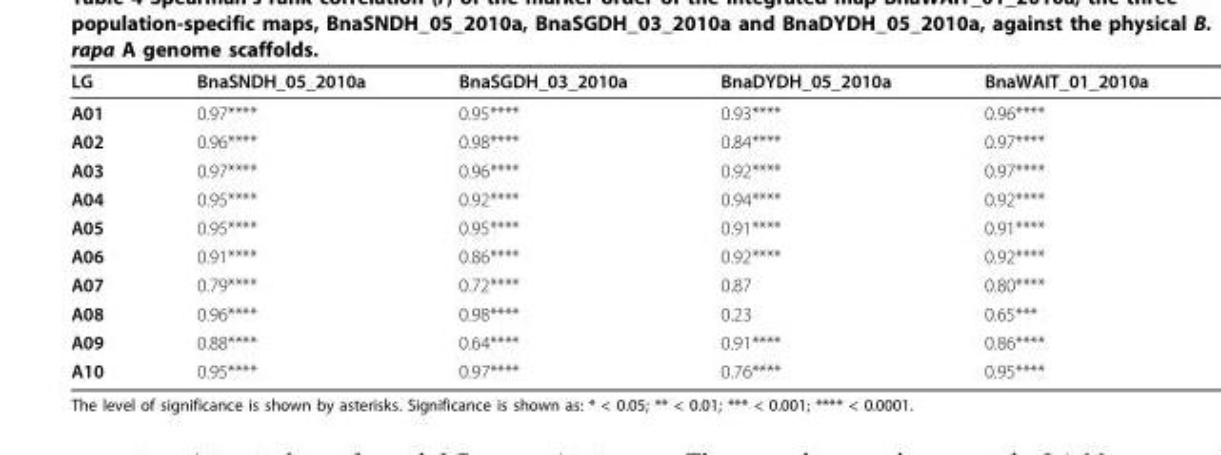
<table><thead><tr><td>LG</td><td>BnaSNDH_05_2010a</td><td>BnaSGDH_03_2010a</td><td>BnaDYDH_05_2010a</td><td>BnaWAIT_01_2010a</td></tr></thead><tbody><tr><td>A01</td><td>0.97****</td><td>0.95****</td><td>0.93****</td><td>0.96****</td></tr><tr><td>A02</td><td>0.96****</td><td>0.98****</td><td>0.84****</td><td>0.97****</td></tr><tr><td>A03</td><td>0.97****</td><td>0.96****</td><td>0.92****</td><td>0.97****</td></tr><tr><td>A04</td><td>0.95****</td><td>0.92****</td><td>0.94****</td><td>0.92****</td></tr><tr><td>A05</td><td>0.95****</td><td>0.95****</td><td>0.91****</td><td>0.91****</td></tr><tr><td>A06</td><td>0.91****</td><td>0.86****</td><td>0.92****</td><td>0.92****</td></tr><tr><td>A07</td><td>0.79****</td><td>0.72****</td><td>0.87</td><td>0.80****</td></tr><tr><td>A08</td><td>0.96****</td><td>0.98****</td><td>0.23</td><td>0.65***</td></tr><tr><td>A09</td><td>0.88****</td><td>0.64****</td><td>0.91****</td><td>0.86****</td></tr><tr><td>A10</td><td>0.95****</td><td>0.97****</td><td>0.76****</td><td>0.95****</td></tr></tbody></table>